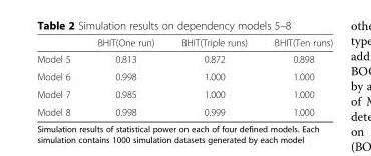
<table><thead><tr><td></td><td>BHIT(One run)</td><td>BHIT(Triple runs)</td><td>BHIT(Ten runs)</td></tr></thead><tbody><tr><td>Model 5</td><td>0.813</td><td>0.872</td><td>0.898</td></tr><tr><td>Model 6</td><td>0.998</td><td>1.000</td><td>1.000</td></tr><tr><td>Model 7</td><td>0.985</td><td>1.000</td><td>1.000</td></tr><tr><td>Model 8</td><td>0.998</td><td>0.999</td><td>1.000</td></tr></tbody></table>